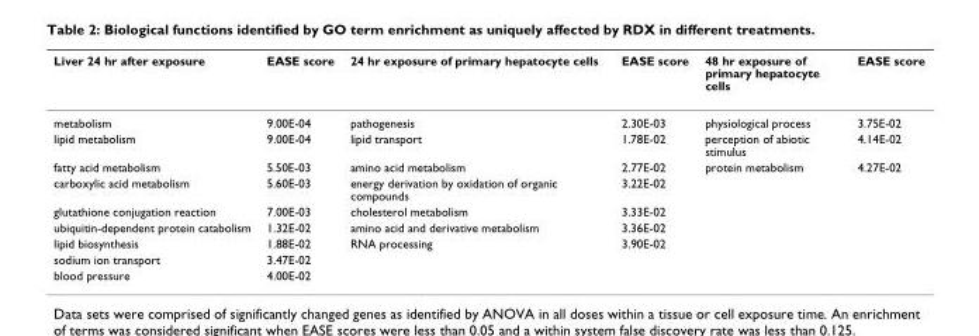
<table><thead><tr><td>Liver 24 hr after exposure</td><td>EASE score</td><td>24 hr exposure of primary hepatocyte cells</td><td>EASE score</td><td>48 hr exposure of primary hepatocyte cells</td><td>EASE score</td></tr></thead><tbody><tr><td>metabolism</td><td>9.00E-04</td><td>pathogenesis</td><td>2.30E-03</td><td>physiological process</td><td>3.75E-02</td></tr><tr><td>lipid metabolism</td><td>9.00E-04</td><td>lipid transport</td><td>1.78E-02</td><td>perception of abiotic stimulus</td><td>4.14E-02</td></tr><tr><td>fatty acid metabolism</td><td>5.50E-03</td><td>amino acid metabolism</td><td>2.77E-02</td><td>protein metabolism</td><td>4.27E-02</td></tr><tr><td>carboxylic acid metabolism</td><td>5.60E-03</td><td>energy derivation by oxidation of organic compounds</td><td>3.22E-02</td><td></td><td></td></tr><tr><td>glutathione conjugation reaction</td><td>7.00E-03</td><td>cholesterol metabolism</td><td>3.33E-02</td><td></td><td></td></tr><tr><td>ubiquitin-dependent protein catabolism</td><td>1.32E-02</td><td>amino acid and derivative metabolism</td><td>3.36E-02</td><td></td><td></td></tr><tr><td>lipid biosynthesis</td><td>1.88E-02</td><td>RNA processing</td><td>3.90E-02</td><td></td><td></td></tr><tr><td>sodium ion transport</td><td>3.47E-02</td><td></td><td></td><td></td><td></td></tr><tr><td>blood pressure</td><td>4.00E-02</td><td></td><td></td><td></td><td></td></tr></tbody></table>